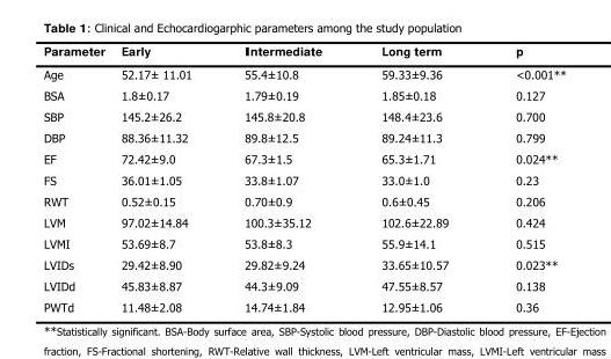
<table><thead><tr><td>Parameter</td><td>Early</td><td>Intermediate</td><td>Long term</td><td>p</td></tr></thead><tbody><tr><td>Age</td><td>52.17± 11.01</td><td>55.4±10.8</td><td>59.33±9.36</td><td>&lt;0.001**</td></tr><tr><td>BSA</td><td>1.8±0.17</td><td>1.79±0.19</td><td>1.85±0.18</td><td>0.127</td></tr><tr><td>SBP</td><td>145.2±26.2</td><td>145.8±20.8</td><td>148.4±23.6</td><td>0.700</td></tr><tr><td>DBP</td><td>88.36±11.32</td><td>89.8±12.5</td><td>89.24±11.3</td><td>0.799</td></tr><tr><td>EF</td><td>72.42±9.0</td><td>67.3±1.5</td><td>65.3±1.71</td><td>0.024**</td></tr><tr><td>FS</td><td>36.01±1.05</td><td>33.8±1.07</td><td>33.0±1.0</td><td>0.23</td></tr><tr><td>RWT</td><td>0.52±0.15</td><td>0.70±0.9</td><td>0.6±0.45</td><td>0.206</td></tr><tr><td>LVM</td><td>97.02±14.84</td><td>100.3±35.12</td><td>102.6±22.89</td><td>0.424</td></tr><tr><td>LVMI</td><td>53.69±8.7</td><td>53.8±8.3</td><td>55.9±14.1</td><td>0.515</td></tr><tr><td>LVIDs</td><td>29.42±8.90</td><td>29.82±9.24</td><td>33.65±10.57</td><td>0.023**</td></tr><tr><td>LVIDd</td><td>45.83±8.87</td><td>44.3±9.09</td><td>47.55±8.57</td><td>0.138</td></tr><tr><td>PWTd</td><td>11.48±2.08</td><td>14.74±1.84</td><td>12.95±1.06</td><td>0.36</td></tr></tbody></table>